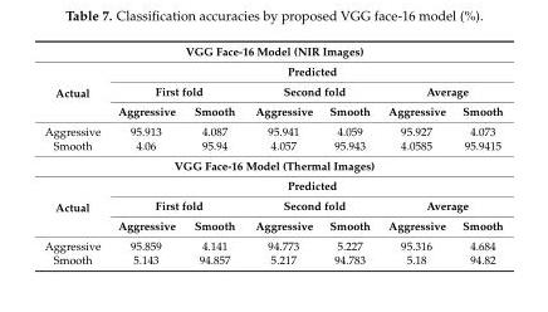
<table><tbody><tr><td colspan="7">VGG Face-16 Model (NIR Images)</td></tr><tr><td rowspan="3">Actual</td><td colspan="6">Predicted</td></tr><tr><td colspan="2">First fold</td><td colspan="2">Second fold</td><td colspan="2">Average</td></tr><tr><td>Aggressive</td><td>Smooth</td><td>Aggressive</td><td>Smooth</td><td>Aggressive</td><td>Smooth</td></tr><tr><td>Aggressive</td><td>95.913</td><td>4.087</td><td>95.941</td><td>4.059</td><td>95.927</td><td>4.073</td></tr><tr><td>Smooth</td><td>4.06</td><td>95.94</td><td>4.057</td><td>95.943</td><td>4.0585</td><td>95.9415</td></tr><tr><td colspan="7">VGG Face-16 Model (Thermal Images)</td></tr><tr><td rowspan="3">Actual</td><td colspan="6">Predicted</td></tr><tr><td colspan="2">First fold</td><td colspan="2">Second fold</td><td colspan="2">Average</td></tr><tr><td>Aggressive</td><td>Smooth</td><td>Aggressive</td><td>Smooth</td><td>Aggressive</td><td>Smooth</td></tr><tr><td>Aggressive</td><td>95.859</td><td>4.141</td><td>94.773</td><td>5.227</td><td>95.316</td><td>4.684</td></tr><tr><td>Smooth</td><td>5.143</td><td>94.857</td><td>5.217</td><td>94.783</td><td>5.18</td><td>94.82</td></tr></tbody></table>